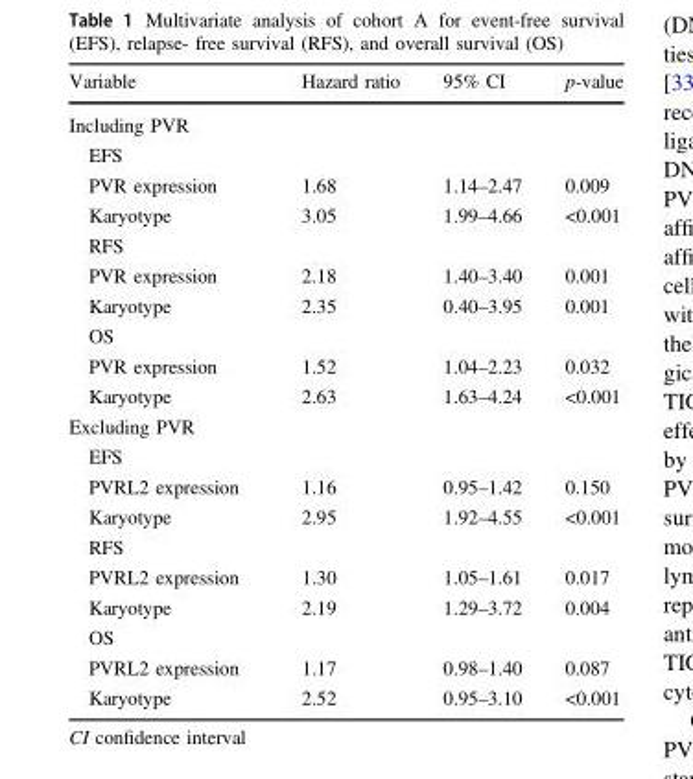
<table><thead><tr><td>Variable</td><td>Hazard ratio</td><td>95% CI</td><td>p-value</td></tr></thead><tbody><tr><td colspan="4">Including PVR</td></tr><tr><td colspan="4">EFS</td></tr><tr><td>PVR expression</td><td>1.68</td><td>1.14–2.47</td><td>0.009</td></tr><tr><td>Karyotype</td><td>3.05</td><td>1.99–4.66</td><td>&lt;0.001</td></tr><tr><td colspan="4">RFS</td></tr><tr><td>PVR expression</td><td>2.18</td><td>1.40–3.40</td><td>0.001</td></tr><tr><td>Karyotype</td><td>2.35</td><td>0.40–3.95</td><td>0.001</td></tr><tr><td colspan="4">OS</td></tr><tr><td>PVR expression</td><td>1.52</td><td>1.04–2.23</td><td>0.032</td></tr><tr><td>Karyotype</td><td>2.63</td><td>1.63–4.24</td><td>&lt;0.001</td></tr><tr><td colspan="4">Excluding PVR</td></tr><tr><td colspan="4">EFS</td></tr><tr><td>PVRL2 expression</td><td>1.16</td><td>0.95–1.42</td><td>0.150</td></tr><tr><td>Karyotype</td><td>2.95</td><td>1.92–4.55</td><td>&lt;0.001</td></tr><tr><td colspan="4">RFS</td></tr><tr><td>PVRL2 expression</td><td>1.30</td><td>1.05–1.61</td><td>0.017</td></tr><tr><td>Karyotype</td><td>2.19</td><td>1.29–3.72</td><td>0.004</td></tr><tr><td colspan="4">OS</td></tr><tr><td>PVRL2 expression</td><td>1.17</td><td>0.98–1.40</td><td>0.087</td></tr><tr><td>Karyotype</td><td>2.52</td><td>0.95–3.10</td><td>&lt;0.001</td></tr></tbody></table>